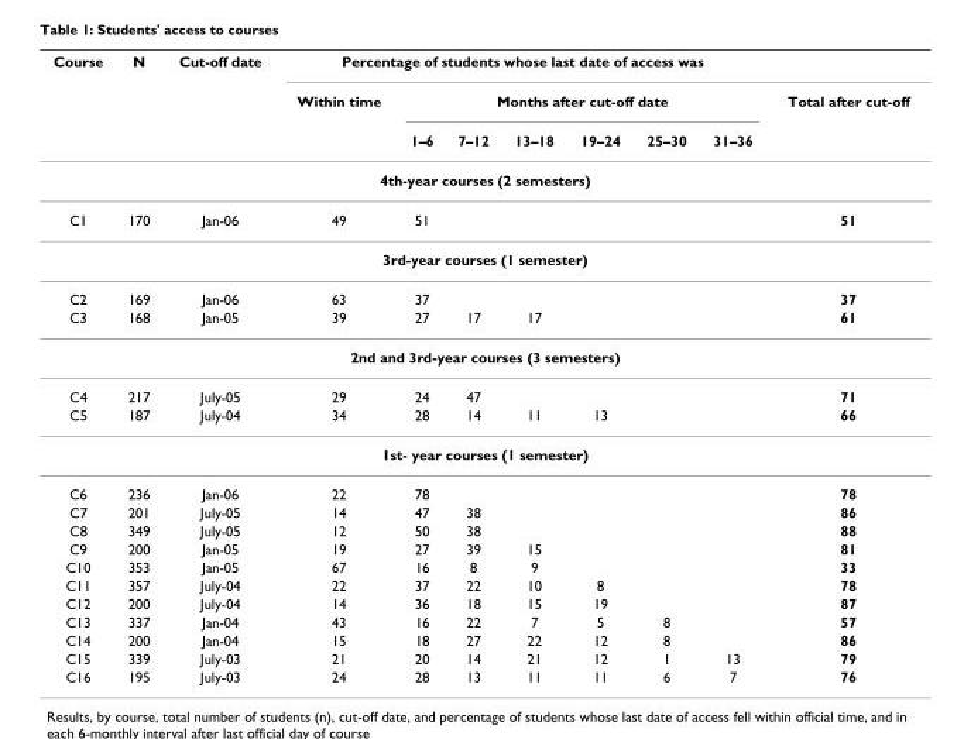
<table><thead><tr><td rowspan="3">Course</td><td rowspan="3">N</td><td rowspan="3">Cut-off date</td><td colspan="7">Percentage of students whose last date of access was</td><td rowspan="3">Total after cut-off</td></tr><tr><td rowspan="2">Within time</td><td colspan="6">Months after cut-off date</td></tr><tr><td>1–6</td><td>7–12</td><td>13–18</td><td>19–24</td><td>25–30</td><td>31–36</td></tr></thead><tbody><tr><td colspan="11">4th-year courses (2 semesters)</td></tr><tr><td>C1</td><td>170</td><td>Jan-06</td><td>49</td><td>51</td><td></td><td></td><td></td><td></td><td></td><td>51</td></tr><tr><td colspan="11">3rd-year courses (1 semester)</td></tr><tr><td>C2</td><td>169</td><td>Jan-06</td><td>63</td><td>37</td><td></td><td></td><td></td><td></td><td></td><td>37</td></tr><tr><td>C3</td><td>168</td><td>Jan-05</td><td>39</td><td>27</td><td>17</td><td>17</td><td></td><td></td><td></td><td>61</td></tr><tr><td colspan="11">2nd and 3rd-year courses (3 semesters)</td></tr><tr><td>C4</td><td>217</td><td>July-05</td><td>29</td><td>24</td><td>47</td><td></td><td></td><td></td><td></td><td>71</td></tr><tr><td>C5</td><td>187</td><td>July-04</td><td>34</td><td>28</td><td>14</td><td>11</td><td>13</td><td></td><td></td><td>66</td></tr><tr><td colspan="11">1st- year courses (1 semester)</td></tr><tr><td>C6</td><td>236</td><td>Jan-06</td><td>22</td><td>78</td><td></td><td></td><td></td><td></td><td></td><td>78</td></tr><tr><td>C7</td><td>201</td><td>July-05</td><td>14</td><td>47</td><td>38</td><td></td><td></td><td></td><td></td><td>86</td></tr><tr><td>C8</td><td>349</td><td>July-05</td><td>12</td><td>50</td><td>38</td><td></td><td></td><td></td><td></td><td>88</td></tr><tr><td>C9</td><td>200</td><td>Jan-05</td><td>19</td><td>27</td><td>39</td><td>15</td><td></td><td></td><td></td><td>81</td></tr><tr><td>C10</td><td>353</td><td>Jan-05</td><td>67</td><td>16</td><td>8</td><td>9</td><td></td><td></td><td></td><td>33</td></tr><tr><td>C11</td><td>357</td><td>July-04</td><td>22</td><td>37</td><td>22</td><td>10</td><td>8</td><td></td><td></td><td>78</td></tr><tr><td>C12</td><td>200</td><td>July-04</td><td>14</td><td>36</td><td>18</td><td>15</td><td>19</td><td></td><td></td><td>87</td></tr><tr><td>C13</td><td>337</td><td>Jan-04</td><td>43</td><td>16</td><td>22</td><td>7</td><td>5</td><td>8</td><td></td><td>57</td></tr><tr><td>C14</td><td>200</td><td>Jan-04</td><td>15</td><td>18</td><td>27</td><td>22</td><td>12</td><td>8</td><td></td><td>86</td></tr><tr><td>C15</td><td>339</td><td>July-03</td><td>21</td><td>20</td><td>14</td><td>21</td><td>12</td><td>1</td><td>13</td><td>79</td></tr><tr><td>C16</td><td>195</td><td>July-03</td><td>24</td><td>28</td><td>13</td><td>11</td><td>11</td><td>6</td><td>7</td><td>76</td></tr></tbody></table>